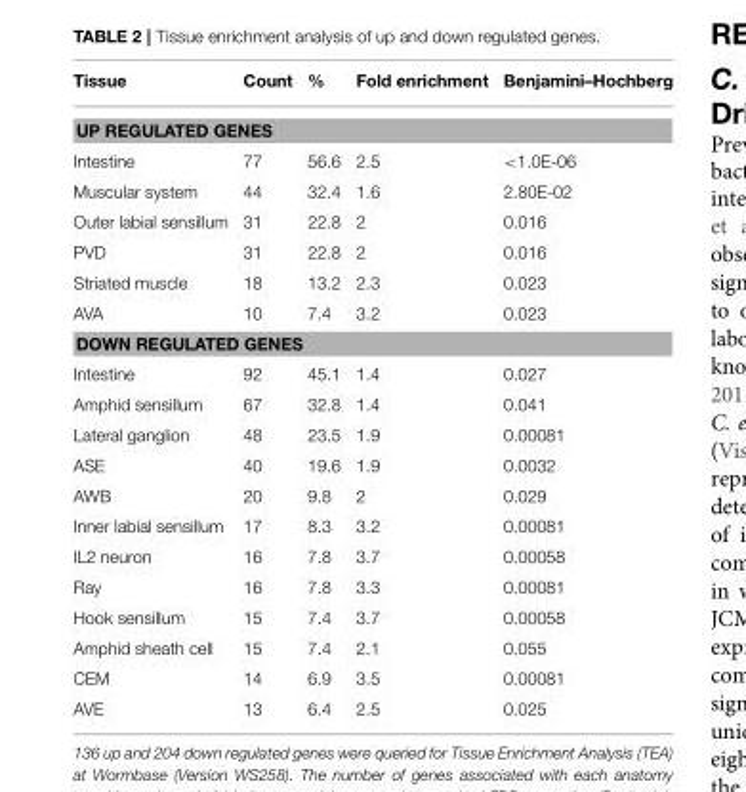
<table><thead><tr><td>Tissue</td><td>Count</td><td>%</td><td>Fold enrichment</td><td>Benjamini–Hochberg</td></tr></thead><tbody><tr><td colspan="5">UP REGULATED GENES</td></tr><tr><td>Intestine</td><td>77</td><td>56.6</td><td>2.5</td><td>&lt;1.0E-06</td></tr><tr><td>Muscular system</td><td>44</td><td>32.4</td><td>1.6</td><td>2.80E-02</td></tr><tr><td>Outer labial sensillum</td><td>31</td><td>22.8</td><td>2</td><td>0.016</td></tr><tr><td>PVD</td><td>31</td><td>22.8</td><td>2</td><td>0.016</td></tr><tr><td>Striated muscle</td><td>18</td><td>13.2</td><td>2.3</td><td>0.023</td></tr><tr><td>AVA</td><td>10</td><td>7.4</td><td>3.2</td><td>0.023</td></tr><tr><td colspan="5">DOWN REGULATED GENES</td></tr><tr><td>Intestine</td><td>92</td><td>45.1</td><td>1.4</td><td>0.027</td></tr><tr><td>Amphid sensillum</td><td>67</td><td>32.8</td><td>1.4</td><td>0.041</td></tr><tr><td>Lateral ganglion</td><td>48</td><td>23.5</td><td>1.9</td><td>0.00081</td></tr><tr><td>ASE</td><td>40</td><td>19.6</td><td>1.9</td><td>0.0032</td></tr><tr><td>AWB</td><td>20</td><td>9.8</td><td>2</td><td>0.029</td></tr><tr><td>Inner labial sensillum</td><td>17</td><td>8.3</td><td>3.2</td><td>0.00081</td></tr><tr><td>IL2 neuron</td><td>16</td><td>7.8</td><td>3.7</td><td>0.00058</td></tr><tr><td>Ray</td><td>16</td><td>7.8</td><td>3.3</td><td>0.00081</td></tr><tr><td>Hook sensillum</td><td>15</td><td>7.4</td><td>3.7</td><td>0.00058</td></tr><tr><td>Amphid sheath cell</td><td>15</td><td>7.4</td><td>2.1</td><td>0.055</td></tr><tr><td>CEM</td><td>14</td><td>6.9</td><td>3.5</td><td>0.00081</td></tr><tr><td>AVE</td><td>13</td><td>6.4</td><td>2.5</td><td>0.025</td></tr></tbody></table>